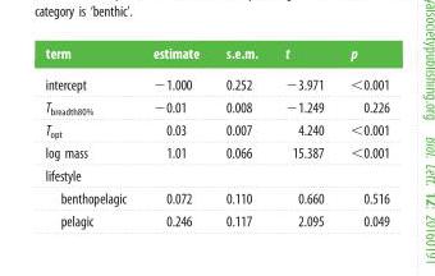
<table><thead><tr><td>term</td><td>estimate</td><td>s.e.m.</td><td>t</td><td>p</td></tr></thead><tbody><tr><td>intercept</td><td>−1.000</td><td>0.252</td><td>−3.971</td><td>&lt;0.001</td></tr><tr><td>T<sub>breadth80%</sub></td><td>−0.01</td><td>0.008</td><td>−1.249</td><td>0.226</td></tr><tr><td>T<sub>opt</sub></td><td>0.03</td><td>0.007</td><td>4.240</td><td>&lt;0.001</td></tr><tr><td>log mass</td><td>1.01</td><td>0.066</td><td>15.387</td><td>&lt;0.001</td></tr><tr><td colspan="5">lifestyle</td></tr><tr><td>benthopelagic</td><td>0.072</td><td>0.110</td><td>0.660</td><td>0.516</td></tr><tr><td>pelagic</td><td>0.246</td><td>0.117</td><td>2.095</td><td>0.049</td></tr></tbody></table>